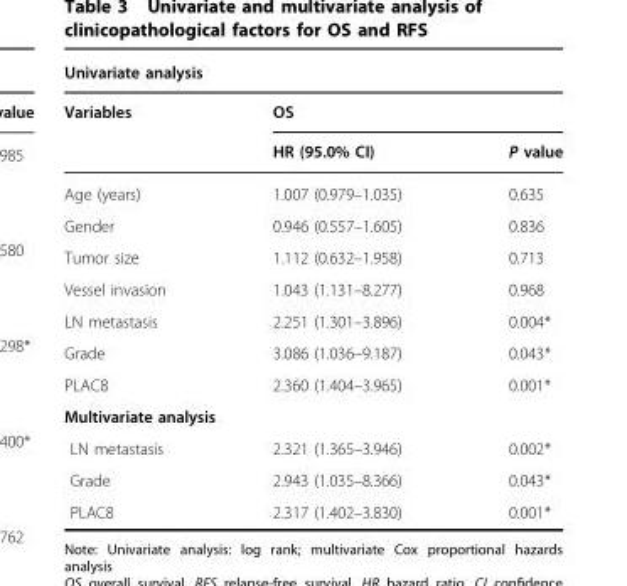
<table><thead><tr><td colspan="3">Univariate analysis</td></tr><tr><td rowspan="2">Variables</td><td colspan="2">OS</td></tr><tr><td>HR (95.0% CI)</td><td>P value</td></tr></thead><tbody><tr><td>Age (years)</td><td>1.007 (0.979–1.035)</td><td>0.635</td></tr><tr><td>Gender</td><td>0.946 (0.557–1.605)</td><td>0.836</td></tr><tr><td>Tumor size</td><td>1.112 (0.632–1.958)</td><td>0.713</td></tr><tr><td>Vessel invasion</td><td>1.043 (1.131–8.277)</td><td>0.968</td></tr><tr><td>LN metastasis</td><td>2.251 (1.301–3.896)</td><td>0.004*</td></tr><tr><td>Grade</td><td>3.086 (1.036–9.187)</td><td>0.043*</td></tr><tr><td>PLAC8</td><td>2.360 (1.404–3.965)</td><td>0.001*</td></tr><tr><td colspan="3">Multivariate analysis</td></tr><tr><td>LN metastasis</td><td>2.321 (1.365–3.946)</td><td>0.002*</td></tr><tr><td>Grade</td><td>2.943 (1.035–8.366)</td><td>0.043*</td></tr><tr><td>PLAC8</td><td>2.317 (1.402–3.830)</td><td>0.001*</td></tr></tbody></table>